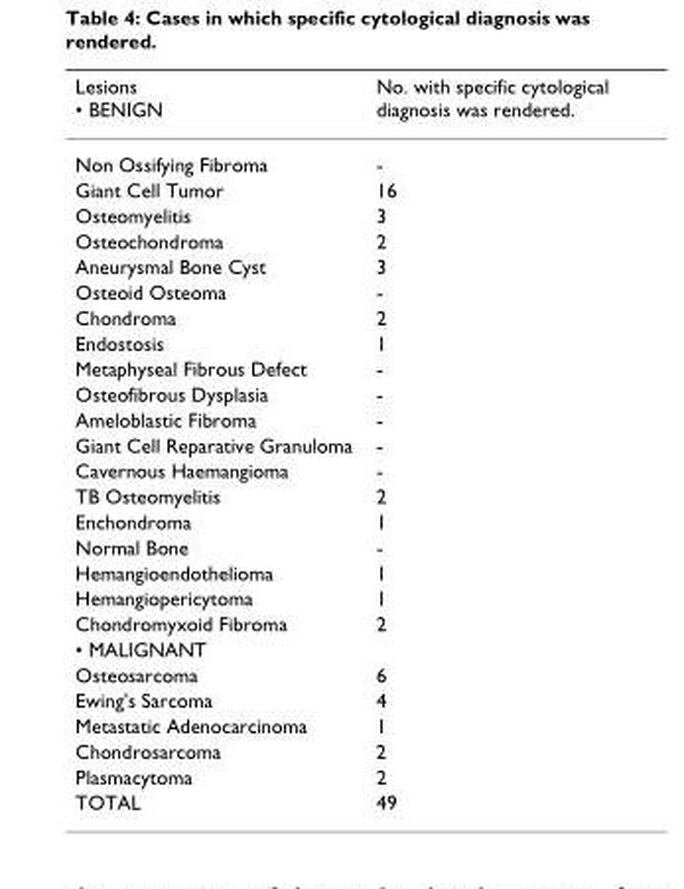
<table><thead><tr><td>Lesions • BENIGN</td><td>No. with specific cytological diagnosis was rendered.</td></tr></thead><tbody><tr><td>Non Ossifying Fibroma</td><td>-</td></tr><tr><td>Giant Cell Tumor</td><td>16</td></tr><tr><td>Osteomyelitis</td><td>3</td></tr><tr><td>Osteochondroma</td><td>2</td></tr><tr><td>Aneurysmal Bone Cyst</td><td>3</td></tr><tr><td>Osteoid Osteoma</td><td>-</td></tr><tr><td>Chondroma</td><td>2</td></tr><tr><td>Endostosis</td><td>1</td></tr><tr><td>Metaphyseal Fibrous Defect</td><td>-</td></tr><tr><td>Osteofibrous Dysplasia</td><td>-</td></tr><tr><td>Ameloblastic Fibroma</td><td>-</td></tr><tr><td>Giant Cell Reparative Granuloma</td><td>-</td></tr><tr><td>Cavernous Haemangioma</td><td>-</td></tr><tr><td>TB Osteomyelitis</td><td>2</td></tr><tr><td>Enchondroma</td><td>1</td></tr><tr><td>Normal Bone</td><td>-</td></tr><tr><td>Hemangioendothelioma</td><td>1</td></tr><tr><td>Hemangiopericytoma</td><td>1</td></tr><tr><td>Chondromyxoid Fibroma</td><td>2</td></tr><tr><td colspan="2">• MALIGNANT</td></tr><tr><td>Osteosarcoma</td><td>6</td></tr><tr><td>Ewing&#x27;s Sarcoma</td><td>4</td></tr><tr><td>Metastatic Adenocarcinoma</td><td>1</td></tr><tr><td>Chondrosarcoma</td><td>2</td></tr><tr><td>Plasmacytoma</td><td>2</td></tr><tr><td>TOTAL</td><td>49</td></tr></tbody></table>